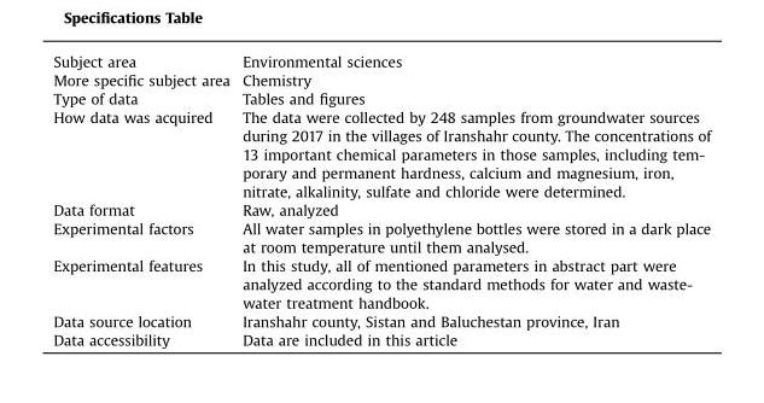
<table><tbody><tr><td>Subject area</td><td>Environmental sciences</td></tr><tr><td>More specific subject area</td><td>Chemistry</td></tr><tr><td>Type of data</td><td>Tables and figures</td></tr><tr><td>How data was acquired</td><td>The data were collected by 248 samples from groundwater sources during 2017 in the villages of Iranshahr county. The concentrations of 13 important chemical parameters in those samples, including tem- porary and permanent hardness, calcium and magnesium, iron, nitrate, alkalinity, sulfate and chloride were determined.</td></tr><tr><td>Data format</td><td>Raw, analyzed</td></tr><tr><td>Experimental factors</td><td>All water samples in polyethylene bottles were stored in a dark place at room temperature until them analysed.</td></tr><tr><td>Experimental features</td><td>In this study, all of mentioned parameters in abstract part were analyzed according to the standard methods for water and waste- water treatment handbook.</td></tr><tr><td>Data source location</td><td>Iranshahr county, Sistan and Baluchestan province, Iran</td></tr><tr><td>Data accessibility</td><td>Data are included in this article</td></tr></tbody></table>